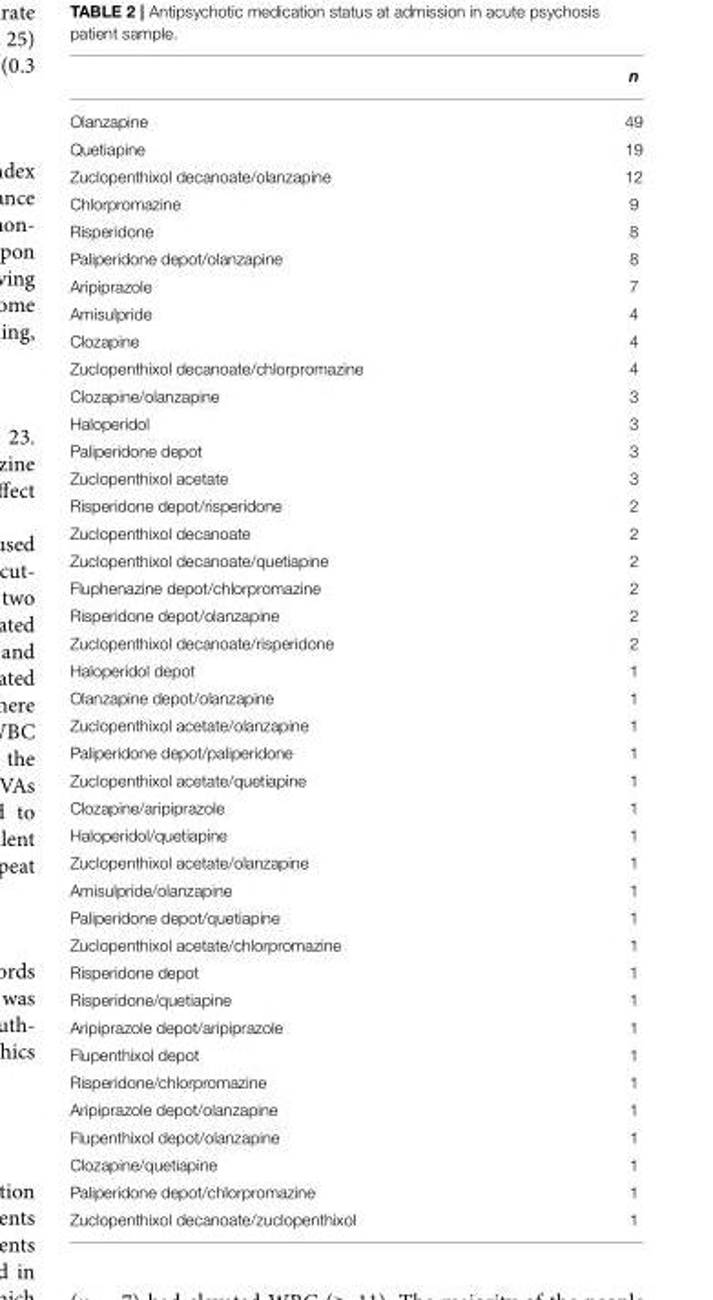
<table><thead><tr><td></td><td>n</td></tr></thead><tbody><tr><td>Olanzapine</td><td>49</td></tr><tr><td>Quetiapine</td><td>19</td></tr><tr><td>Zuclopenthixol decanoate/olanzapine</td><td>12</td></tr><tr><td>Chlorpromazine</td><td>9</td></tr><tr><td>Risperidone</td><td>8</td></tr><tr><td>Paliperidone depot/olanzapine</td><td>8</td></tr><tr><td>Aripiprazole</td><td>7</td></tr><tr><td>Amisulpride</td><td>4</td></tr><tr><td>Clozapine</td><td>4</td></tr><tr><td>Zuclopenthixol decanoate/chlorpromazine</td><td>4</td></tr><tr><td>Clozapine/olanzapine</td><td>3</td></tr><tr><td>Haloperidol</td><td>3</td></tr><tr><td>Paliperidone depot</td><td>3</td></tr><tr><td>Zuclopenthixol acetate</td><td>3</td></tr><tr><td>Risperidone depot/risperidone</td><td>2</td></tr><tr><td>Zuclopenthixol decanoate</td><td>2</td></tr><tr><td>Zuclopenthixol decanoate/quetiapine</td><td>2</td></tr><tr><td>Fluphenazine depot/chlorpromazine</td><td>2</td></tr><tr><td>Risperidone depot/olanzapine</td><td>2</td></tr><tr><td>Zuclopenthixol decanoate/risperidone</td><td>2</td></tr><tr><td>Haloperidol depot</td><td>1</td></tr><tr><td>Olanzapine depot/olanzapine</td><td>1</td></tr><tr><td>Zuclopenthixol acetate/olanzapine</td><td>1</td></tr><tr><td>Paliperidone depot/paliperidone</td><td>1</td></tr><tr><td>Zuclopenthixol acetate/quetiapine</td><td>1</td></tr><tr><td>Clozapine/aripiprazole</td><td>1</td></tr><tr><td>Haloperidol/quetiapine</td><td>1</td></tr><tr><td>Zuclopenthixol acetate/olanzapine</td><td>1</td></tr><tr><td>Amisulpride/olanzapine</td><td>1</td></tr><tr><td>Paliperidone depot/quetiapine</td><td>1</td></tr><tr><td>Zuclopenthixol acetate/chlorpromazine</td><td>1</td></tr><tr><td>Risperidone depot</td><td>1</td></tr><tr><td>Risperidone/quetiapine</td><td>1</td></tr><tr><td>Aripiprazole depot/aripiprazole</td><td>1</td></tr><tr><td>Flupenthixol depot</td><td>1</td></tr><tr><td>Risperidone/chlorpromazine</td><td>1</td></tr><tr><td>Aripiprazole depot/olanzapine</td><td>1</td></tr><tr><td>Flupenthixol depot/olanzapine</td><td>1</td></tr><tr><td>Clozapine/quetiapine</td><td>1</td></tr><tr><td>Paliperidone depot/chlorpromazine</td><td>1</td></tr><tr><td>Zuclopenthixol decanoate/zuclopenthixol</td><td>1</td></tr></tbody></table>